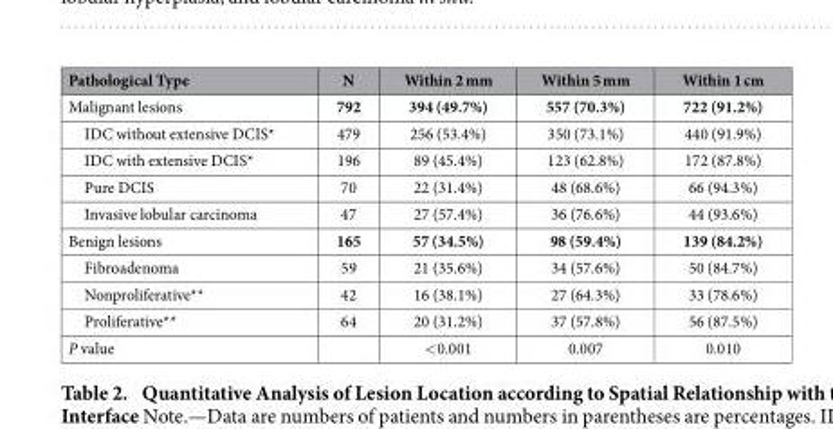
<table><thead><tr><td>Pathological Type</td><td>N</td><td>Within 2 mm</td><td>Within 5 mm</td><td>Within 1 cm</td></tr></thead><tbody><tr><td>Malignant lesions</td><td>792</td><td>394 (49.7%)</td><td>557 (70.3%)</td><td>722 (91.2%)</td></tr><tr><td>IDC without extensive DCIS*</td><td>479</td><td>256 (53.4%)</td><td>350 (73.1%)</td><td>440 (91.9%)</td></tr><tr><td>IDC with extensive DCIS*</td><td>196</td><td>89 (45.4%)</td><td>123 (62.8%)</td><td>172 (87.8%)</td></tr><tr><td>Pure DCIS</td><td>70</td><td>22 (31.4%)</td><td>48 (68.6%)</td><td>66 (94.3%)</td></tr><tr><td>Invasive lobular carcinoma</td><td>47</td><td>27 (57.4%)</td><td>36 (76.6%)</td><td>44 (93.6%)</td></tr><tr><td>Benign lesions</td><td>165</td><td>57 (34.5%)</td><td>98 (59.4%)</td><td>139 (84.2%)</td></tr><tr><td>Fibroadenoma</td><td>59</td><td>21 (35.6%)</td><td>34 (57.6%)</td><td>50 (84.7%)</td></tr><tr><td>Nonproliferative**</td><td>42</td><td>16 (38.1%)</td><td>27 (64.3%)</td><td>33 (78.6%)</td></tr><tr><td>Proliferative**</td><td>64</td><td>20 (31.2%)</td><td>37 (57.8%)</td><td>56 (87.5%)</td></tr><tr><td>P value</td><td></td><td>&lt; 0.001</td><td>0.007</td><td>0.010</td></tr></tbody></table>